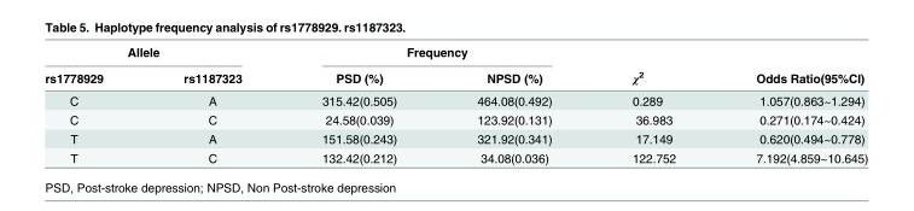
<table><thead><tr><td colspan="2">Allele</td><td colspan="2">Frequency</td><td rowspan="2">χ<sup>2</sup></td><td rowspan="2">Odds Ratio(95%CI)</td></tr><tr><td>rs1778929</td><td>rs1187323</td><td>PSD (%)</td><td>NPSD (%)</td></tr></thead><tbody><tr><td>C</td><td>A</td><td>315.42(0.505)</td><td>464.08(0.492)</td><td>0.289</td><td>1.057(0.863~1.294)</td></tr><tr><td>C</td><td>C</td><td>24.58(0.039)</td><td>123.92(0.131)</td><td>36.983</td><td>0.271(0.174~0.424)</td></tr><tr><td>T</td><td>A</td><td>151.58(0.243)</td><td>321.92(0.341)</td><td>17.149</td><td>0.620(0.494~0.778)</td></tr><tr><td>T</td><td>C</td><td>132.42(0.212)</td><td>34.08(0.036)</td><td>122.752</td><td>7.192(4.859~10.645)</td></tr></tbody></table>